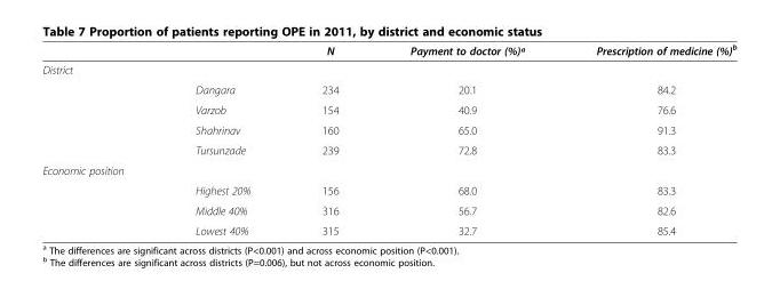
<table><thead><tr><td></td><td></td><td>N</td><td>Payment to doctor (%)ª</td><td>Prescription of medicine (%)<sup>b</sup></td></tr></thead><tbody><tr><td colspan="5">District</td></tr><tr><td></td><td>Dangara</td><td>234</td><td>20.1</td><td>84.2</td></tr><tr><td></td><td>Varzob</td><td>154</td><td>40.9</td><td>76.6</td></tr><tr><td></td><td>Shahrinav</td><td>160</td><td>65.0</td><td>91.3</td></tr><tr><td></td><td>Tursunzade</td><td>239</td><td>72.8</td><td>83.3</td></tr><tr><td colspan="5">Economic position</td></tr><tr><td></td><td>Highest 20%</td><td>156</td><td>68.0</td><td>83.3</td></tr><tr><td></td><td>Middle 40%</td><td>316</td><td>56.7</td><td>82.6</td></tr><tr><td></td><td>Lowest 40%</td><td>315</td><td>32.7</td><td>85.4</td></tr></tbody></table>